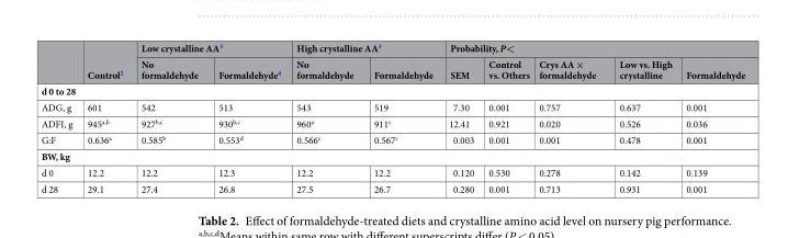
<table><thead><tr><td rowspan="2"></td><td rowspan="2">Control<sup>2</sup></td><td colspan="2">Low crystalline AA<sup>3</sup></td><td colspan="2">High crystalline AA<sup>3</sup></td><td colspan="5">Probability, P&lt;</td></tr><tr><td>No formaldehyde</td><td>Formaldehyde<sup>4</sup></td><td>No formaldehyde</td><td>Formaldehyde</td><td>SEM</td><td>Control vs. Others</td><td>Crys AA × formaldehyde</td><td>Low vs. High crystalline</td><td>Formaldehyde</td></tr></thead><tbody><tr><td colspan="11">d 0 to 28</td></tr><tr><td>ADG, g</td><td>601</td><td>542</td><td>513</td><td>543</td><td>519</td><td>7.30</td><td>0.001</td><td>0.757</td><td>0.637</td><td>0.001</td></tr><tr><td>ADFI, g</td><td>945<sup>a,b</sup></td><td>927<sup>b,c</sup></td><td>930<sup>b,c</sup></td><td>960<sup>a</sup></td><td>911<sup>c</sup></td><td>12.41</td><td>0.921</td><td>0.020</td><td>0.526</td><td>0.036</td></tr><tr><td>G:F</td><td>0.636<sup>a</sup></td><td>0.585<sup>b</sup></td><td>0.553<sup>d</sup></td><td>0.566<sup>c</sup></td><td>0.567<sup>c</sup></td><td>0.003</td><td>0.001</td><td>0.001</td><td>0.478</td><td>0.001</td></tr><tr><td colspan="11">BW, kg</td></tr><tr><td>d 0</td><td>12.2</td><td>12.2</td><td>12.3</td><td>12.2</td><td>12.2</td><td>0.120</td><td>0.530</td><td>0.278</td><td>0.142</td><td>0.139</td></tr><tr><td>d 28</td><td>29.1</td><td>27.4</td><td>26.8</td><td>27.5</td><td>26.7</td><td>0.280</td><td>0.001</td><td>0.713</td><td>0.931</td><td>0.001</td></tr></tbody></table>